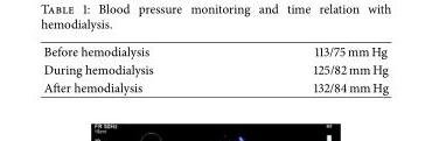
<table><tbody><tr><td>Before hemodialysis</td><td>113/75 mm Hg</td></tr><tr><td>During hemodialysis</td><td>125/82 mm Hg</td></tr><tr><td>After hemodialysis</td><td>132/84 mm Hg</td></tr></tbody></table>